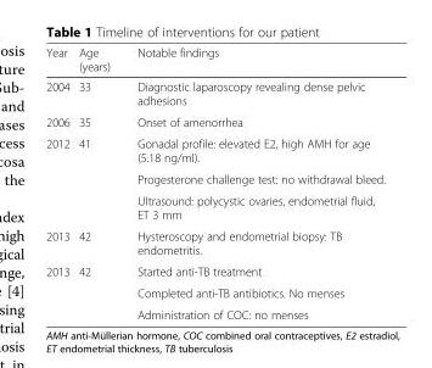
<table><thead><tr><td>Year</td><td>Age (years)</td><td>Notable findings</td></tr></thead><tbody><tr><td>2004</td><td>33</td><td>Diagnostic laparoscopy revealing dense pelvic adhesions</td></tr><tr><td>2006</td><td>35</td><td>Onset of amenorrhea</td></tr><tr><td rowspan="3">2012</td><td>41</td><td>Gonadal profile: elevated E2, high AMH for age (5.18 ng/ml).</td></tr><tr><td></td><td>Progesterone challenge test: no withdrawal bleed.</td></tr><tr><td></td><td>Ultrasound: polycystic ovaries, endometrial fluid, ET 3 mm</td></tr><tr><td>2013</td><td>42</td><td>Hysteroscopy and endometrial biopsy: TB endometritis.</td></tr><tr><td rowspan="3">2013</td><td>42</td><td>Started anti-TB treatment</td></tr><tr><td></td><td>Completed anti-TB antibiotics. No menses</td></tr><tr><td></td><td>Administration of COC: no menses</td></tr></tbody></table>